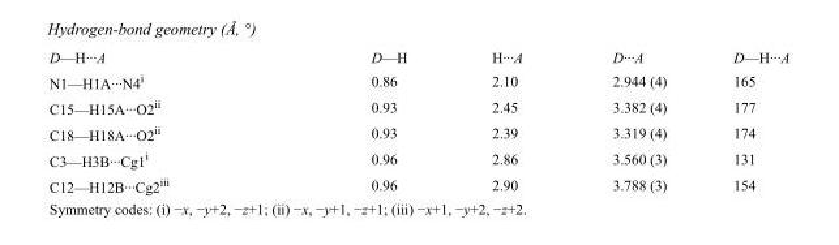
<table><tbody><tr><td>D—H···A</td><td>D—H</td><td>H···A</td><td>D···A</td><td>D—H···A</td></tr><tr><td>N1—H1A···N4<sup>i</sup></td><td>0.86</td><td>2.10</td><td>2.944 (4)</td><td>165</td></tr><tr><td>C15—H15A···O2<sup>ii</sup></td><td>0.93</td><td>2.45</td><td>3.382 (4)</td><td>177</td></tr><tr><td>C18—H18A···O2<sup>ii</sup></td><td>0.93</td><td>2.39</td><td>3.319 (4)</td><td>174</td></tr><tr><td>C3—H3B···Cg1<sup>i</sup></td><td>0.96</td><td>2.86</td><td>3.560 (3)</td><td>131</td></tr><tr><td>C12—H12B···Cg2<sup>iii</sup></td><td>0.96</td><td>2.90</td><td>3.788 (3)</td><td>154</td></tr></tbody></table>